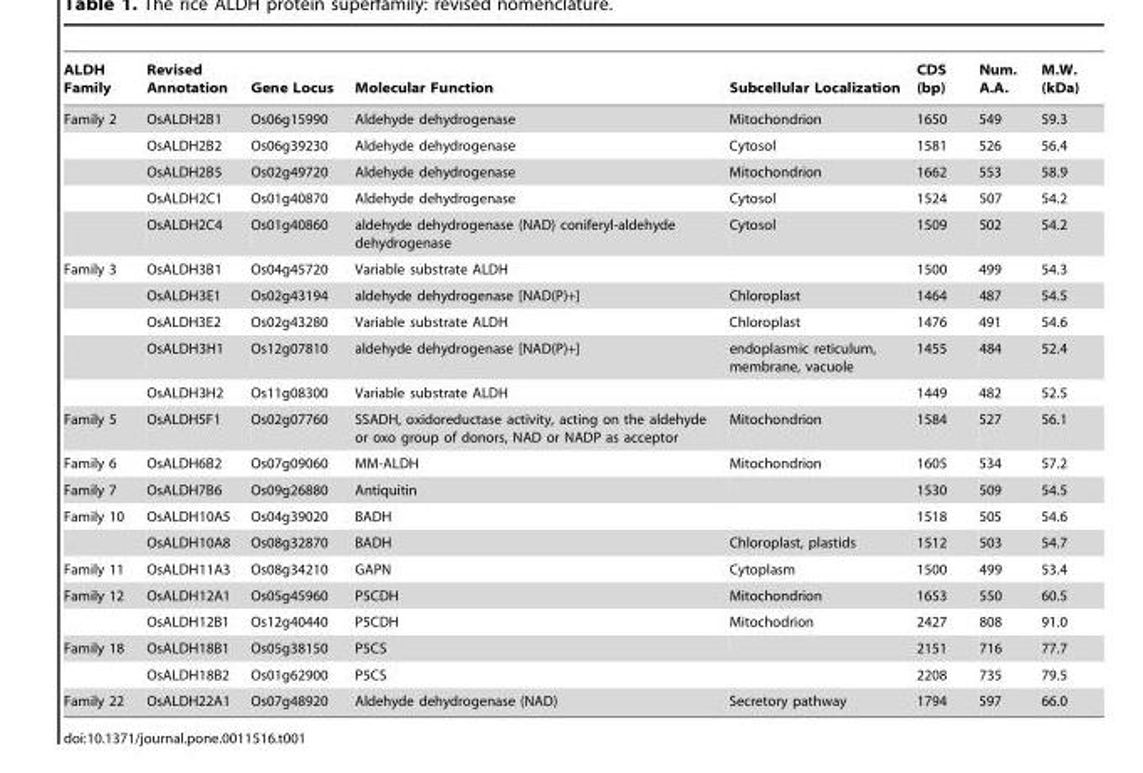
<table><thead><tr><td>ALDH Family</td><td>Revised Annotation</td><td>Gene Locus</td><td>Molecular Function</td><td>Subcellular Localization</td><td>CDS (bp)</td><td>Num. A.A.</td><td>M.W. (kDa)</td></tr></thead><tbody><tr><td rowspan="5">Family 2</td><td>OsALDH2B1</td><td>Os06g15990</td><td>Aldehyde dehydrogenase</td><td>Mitochondrion</td><td>1650</td><td>549</td><td>59.3</td></tr><tr><td>OsALDH2B2</td><td>Os06g39230</td><td>Aldehyde dehydrogenase</td><td>Cytosol</td><td>1581</td><td>526</td><td>56.4</td></tr><tr><td>OsALDH2B5</td><td>Os02g49720</td><td>Aldehyde dehydrogenase</td><td>Mitochondrion</td><td>1662</td><td>553</td><td>58.9</td></tr><tr><td>OsALDH2C1</td><td>Os01g40870</td><td>Aldehyde dehydrogenase</td><td>Cytosol</td><td>1524</td><td>507</td><td>54.2</td></tr><tr><td>OsALDH2C4</td><td>Os01g40860</td><td>aldehyde dehydrogenase (NAD) coniferyl-aldehyde dehydrogenase</td><td>Cytosol</td><td>1509</td><td>502</td><td>54.2</td></tr><tr><td rowspan="5">Family 3</td><td>OsALDH3B1</td><td>Os04g45720</td><td>Variable substrate ALDH</td><td></td><td>1500</td><td>499</td><td>54.3</td></tr><tr><td>OsALDH3E1</td><td>Os02g43194</td><td>aldehyde dehydrogenase [NAD(P)+]</td><td>Chloroplast</td><td>1464</td><td>487</td><td>54.5</td></tr><tr><td>OsALDH3E2</td><td>Os02g43280</td><td>Variable substrate ALDH</td><td>Chloroplast</td><td>1476</td><td>491</td><td>54.6</td></tr><tr><td>OsALDH3H1</td><td>Os12g07810</td><td>aldehyde dehydrogenase [NAD(P)+]</td><td>endoplasmic reticulum, membrane, vacuole</td><td>1455</td><td>484</td><td>52.4</td></tr><tr><td>OsALDH3H2</td><td>Os11g08300</td><td>Variable substrate ALDH</td><td></td><td>1449</td><td>482</td><td>52.5</td></tr><tr><td>Family 5</td><td>OsALDH5F1</td><td>Os02g07760</td><td>SSADH, oxidoreductase activity, acting on the aldehyde or oxo group of donors, NAD or NADP as acceptor</td><td>Mitochondrion</td><td>1584</td><td>527</td><td>56.1</td></tr><tr><td>Family 6</td><td>OsALDH6B2</td><td>Os07g09060</td><td>MM-ALDH</td><td>Mitochondrion</td><td>1605</td><td>534</td><td>57.2</td></tr><tr><td>Family 7</td><td>OsALDH7B6</td><td>Os09g26880</td><td>Antiquitin</td><td></td><td>1530</td><td>509</td><td>54.5</td></tr><tr><td rowspan="2">Family 10</td><td>OsALDH10A5</td><td>Os04g39020</td><td>BADH</td><td></td><td>1518</td><td>505</td><td>54.6</td></tr><tr><td>OsALDH10A8</td><td>Os08g32870</td><td>BADH</td><td>Chloroplast, plastids</td><td>1512</td><td>503</td><td>54.7</td></tr><tr><td>Family 11</td><td>OsALDH11A3</td><td>Os08g34210</td><td>GAPN</td><td>Cytoplasm</td><td>1500</td><td>499</td><td>53.4</td></tr><tr><td rowspan="2">Family 12</td><td>OsALDH12A1</td><td>Os05g45960</td><td>P5CDH</td><td>Mitochondrion</td><td>1653</td><td>550</td><td>60.5</td></tr><tr><td>OsALDH12B1</td><td>Os12g40440</td><td>P5CDH</td><td>Mitochodrion</td><td>2427</td><td>808</td><td>91.0</td></tr><tr><td rowspan="2">Family 18</td><td>OsALDH18B1</td><td>Os05g38150</td><td>P5CS</td><td></td><td>2151</td><td>716</td><td>77.7</td></tr><tr><td>OsALDH18B2</td><td>Os01g62900</td><td>P5CS</td><td></td><td>2208</td><td>735</td><td>79.5</td></tr><tr><td>Family 22</td><td>OsALDH22A1</td><td>Os07g48920</td><td>Aldehyde dehydrogenase (NAD)</td><td>Secretory pathway</td><td>1794</td><td>597</td><td>66.0</td></tr></tbody></table>